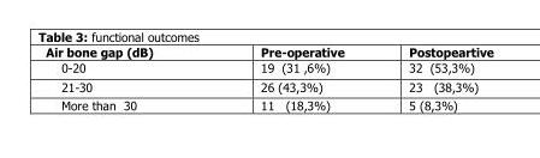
<table><thead><tr><td>Air bone gap (dB)</td><td>Pre-operative</td><td>Postopeartive</td></tr></thead><tbody><tr><td>0-20</td><td>19 (31 ,6%)</td><td>32 (53,3%)</td></tr><tr><td>21-30</td><td>26 (43,3%)</td><td>23 (38,3%)</td></tr><tr><td>More than 30</td><td>11 (18,3%)</td><td>5 (8,3%)</td></tr></tbody></table>